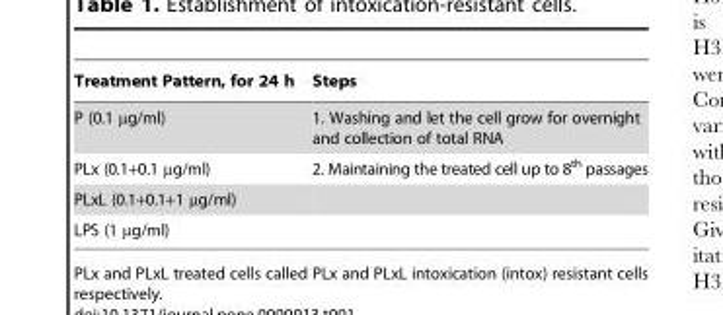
<table><thead><tr><td>Treatment Pattern, for 24 h</td><td>Steps</td></tr></thead><tbody><tr><td>P (0.1 µg/ml)</td><td>1. Washing and let the cell grow for overnight and collection of total RNA</td></tr><tr><td>PLx (0.1+0.1 µg/ml)</td><td>2. Maintaining the treated cell up to 8<sup>th</sup> passages</td></tr><tr><td colspan="2">PLxL (0.1+0.1+1 µg/ml)</td></tr><tr><td>LPS (1 µg/ml)</td><td></td></tr></tbody></table>